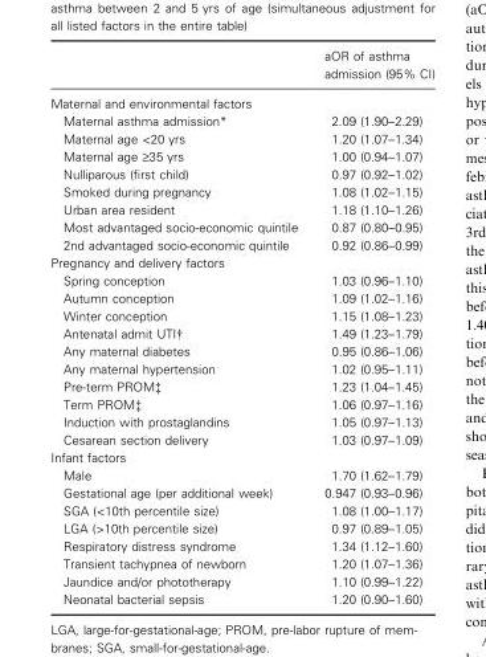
<table><thead><tr><td></td><td>aOR of asthma admission (95% CI)</td></tr></thead><tbody><tr><td colspan="2">Maternal and environmental factors</td></tr><tr><td>Maternal asthma admission*</td><td>2.09 (1.90–2.29)</td></tr><tr><td>Maternal age &lt;20 yrs</td><td>1.20 (1.07–1.34)</td></tr><tr><td>Maternal age ‡35 yrs</td><td>1.00 (0.94–1.07)</td></tr><tr><td>Nulliparous (first child)</td><td>0.97 (0.92–1.02)</td></tr><tr><td>Smoked during pregnancy</td><td>1.08 (1.02–1.15)</td></tr><tr><td>Urban area resident</td><td>1.18 (1.10–1.26)</td></tr><tr><td>Most advantaged socio-economic quintile</td><td>0.87 (0.80–0.95)</td></tr><tr><td>2nd advantaged socio-economic quintile</td><td>0.92 (0.86–0.99)</td></tr><tr><td colspan="2">Pregnancy and delivery factors</td></tr><tr><td>Spring conception</td><td>1.03 (0.96–1.10)</td></tr><tr><td>Autumn conception</td><td>1.09 (1.02–1.16)</td></tr><tr><td>Winter conception</td><td>1.15 (1.08–1.23)</td></tr><tr><td>Antenatal admit UTI†</td><td>1.49 (1.23–1.79)</td></tr><tr><td>Any maternal diabetes</td><td>0.95 (0.86–1.06)</td></tr><tr><td>Any maternal hypertension</td><td>1.02 (0.95–1.11)</td></tr><tr><td>Pre-term PROM‡</td><td>1.23 (1.04–1.45)</td></tr><tr><td>Term PROM‡</td><td>1.06 (0.97–1.16)</td></tr><tr><td>Induction with prostaglandins</td><td>1.05 (0.97–1.13)</td></tr><tr><td>Cesarean section delivery</td><td>1.03 (0.97–1.09)</td></tr><tr><td colspan="2">Infant factors</td></tr><tr><td>Male</td><td>1.70 (1.62–1.79)</td></tr><tr><td>Gestational age (per additional week)</td><td>0.947 (0.93–0.96)</td></tr><tr><td>SGA (&lt;10th percentile size)</td><td>1.08 (1.00–1.17)</td></tr><tr><td>LGA (&gt;10th percentile size)</td><td>0.97 (0.89–1.05)</td></tr><tr><td>Respiratory distress syndrome</td><td>1.34 (1.12–1.60)</td></tr><tr><td>Transient tachypnea of newborn</td><td>1.20 (1.07–1.36)</td></tr><tr><td>Jaundice and/or phototherapy</td><td>1.10 (0.99–1.22)</td></tr><tr><td>Neonatal bacterial sepsis</td><td>1.20 (0.90–1.60)</td></tr></tbody></table>